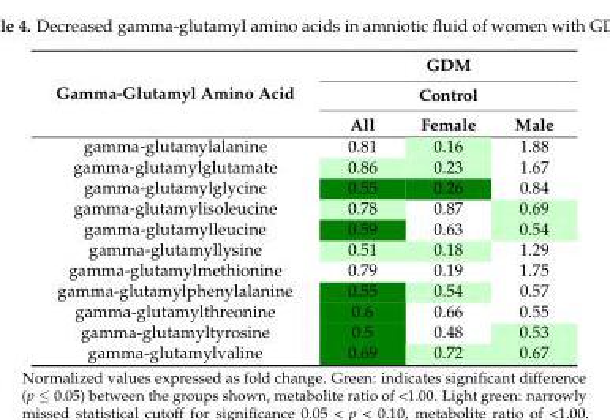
<table><thead><tr><td rowspan="3">Gamma-Glutamyl Amino Acid</td><td rowspan="2" colspan="3">GDM Control</td></tr><tr></tr><tr><td>All</td><td>Female</td><td>Male</td></tr></thead><tbody><tr><td>gamma-glutamylalanine</td><td>0.81</td><td>0.16</td><td>1.88</td></tr><tr><td>gamma-glutamylglutamate</td><td>0.86</td><td>0.23</td><td>1.67</td></tr><tr><td>gamma-glutamylglycine</td><td>0.55</td><td>0.26</td><td>0.84</td></tr><tr><td>gamma-glutamylisoleucine</td><td>0.78</td><td>0.87</td><td>0.69</td></tr><tr><td>gamma-glutamylleucine</td><td>0.59</td><td>0.63</td><td>0.54</td></tr><tr><td>gamma-glutamyllysine</td><td>0.51</td><td>0.18</td><td>1.29</td></tr><tr><td>gamma-glutamylmethionine</td><td>0.79</td><td>0.19</td><td>1.75</td></tr><tr><td>gamma-glutamylphenylalanine</td><td>0.55</td><td>0.54</td><td>0.57</td></tr><tr><td>gamma-glutamylthreonine</td><td>0.6</td><td>0.66</td><td>0.55</td></tr><tr><td>gamma-glutamyltyrosine</td><td>0.5</td><td>0.48</td><td>0.53</td></tr><tr><td>gamma-glutamylvaline</td><td>0.69</td><td>0.72</td><td>0.67</td></tr></tbody></table>